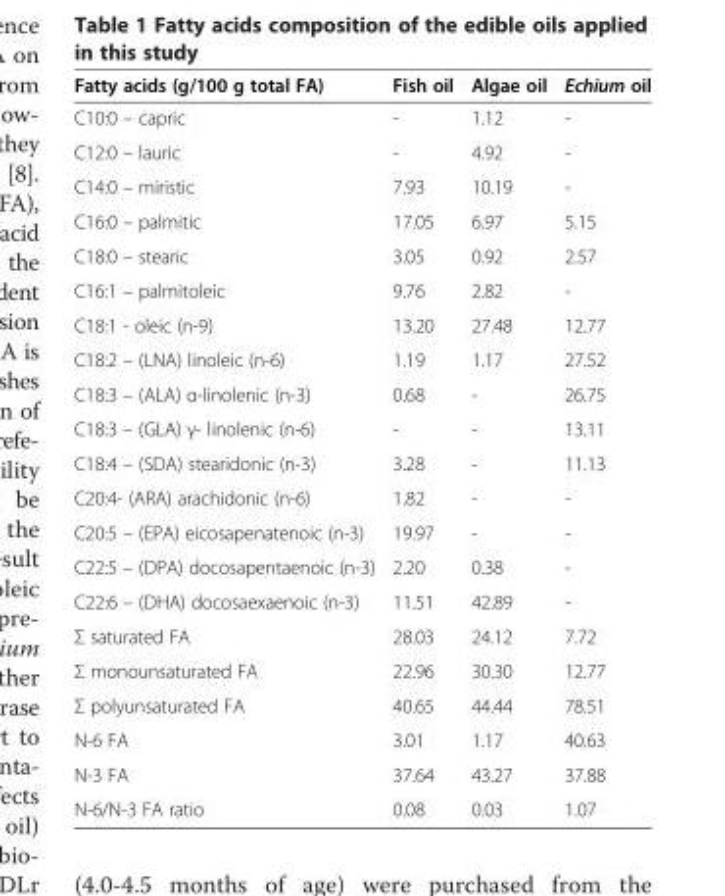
<table><thead><tr><td>Fatty acids (g/100 g total FA)</td><td>Fish oil</td><td>Algae oil</td><td>Echium oil</td></tr></thead><tbody><tr><td>C10:0 – capric</td><td>-</td><td>1.12</td><td>-</td></tr><tr><td>C12:0 – lauric</td><td>-</td><td>4.92</td><td>-</td></tr><tr><td>C14:0 – miristic</td><td>7.93</td><td>10.19</td><td>-</td></tr><tr><td>C16:0 – palmitic</td><td>17.05</td><td>6.97</td><td>5.15</td></tr><tr><td>C18:0 – stearic</td><td>3.05</td><td>0.92</td><td>2.57</td></tr><tr><td>C16:1 – palmitoleic</td><td>9.76</td><td>2.82</td><td>-</td></tr><tr><td>C18:1 - oleic (n-9)</td><td>13.20</td><td>27.48</td><td>12.77</td></tr><tr><td>C18:2 – (LNA) linoleic (n-6)</td><td>1.19</td><td>1.17</td><td>27.52</td></tr><tr><td>C18:3 – (ALA) α-linolenic (n-3)</td><td>0.68</td><td>-</td><td>26.75</td></tr><tr><td>C18:3 – (GLA) γ- linolenic (n-6)</td><td>-</td><td>-</td><td>13.11</td></tr><tr><td>C18:4 – (SDA) stearidonic (n-3)</td><td>3.28</td><td>-</td><td>11.13</td></tr><tr><td>C20:4- (ARA) arachidonic (n-6)</td><td>1.82</td><td>-</td><td>-</td></tr><tr><td>C20:5 – (EPA) eicosapenatenoic (n-3)</td><td>19.97</td><td>-</td><td>-</td></tr><tr><td>C22:5 – (DPA) docosapentaenoic (n-3)</td><td>2.20</td><td>0.38</td><td>-</td></tr><tr><td>C22:6 – (DHA) docosaexaenoic (n-3)</td><td>11.51</td><td>42.89</td><td>-</td></tr><tr><td>Σ saturated FA</td><td>28.03</td><td>24.12</td><td>7.72</td></tr><tr><td>Σ monounsaturated FA</td><td>22.96</td><td>30.30</td><td>12.77</td></tr><tr><td>Σ polyunsaturated FA</td><td>40.65</td><td>44.44</td><td>78.51</td></tr><tr><td>N-6 FA</td><td>3.01</td><td>1.17</td><td>40.63</td></tr><tr><td>N-3 FA</td><td>37.64</td><td>43.27</td><td>37.88</td></tr><tr><td>N-6/N-3 FA ratio</td><td>0.08</td><td>0.03</td><td>1.07</td></tr></tbody></table>